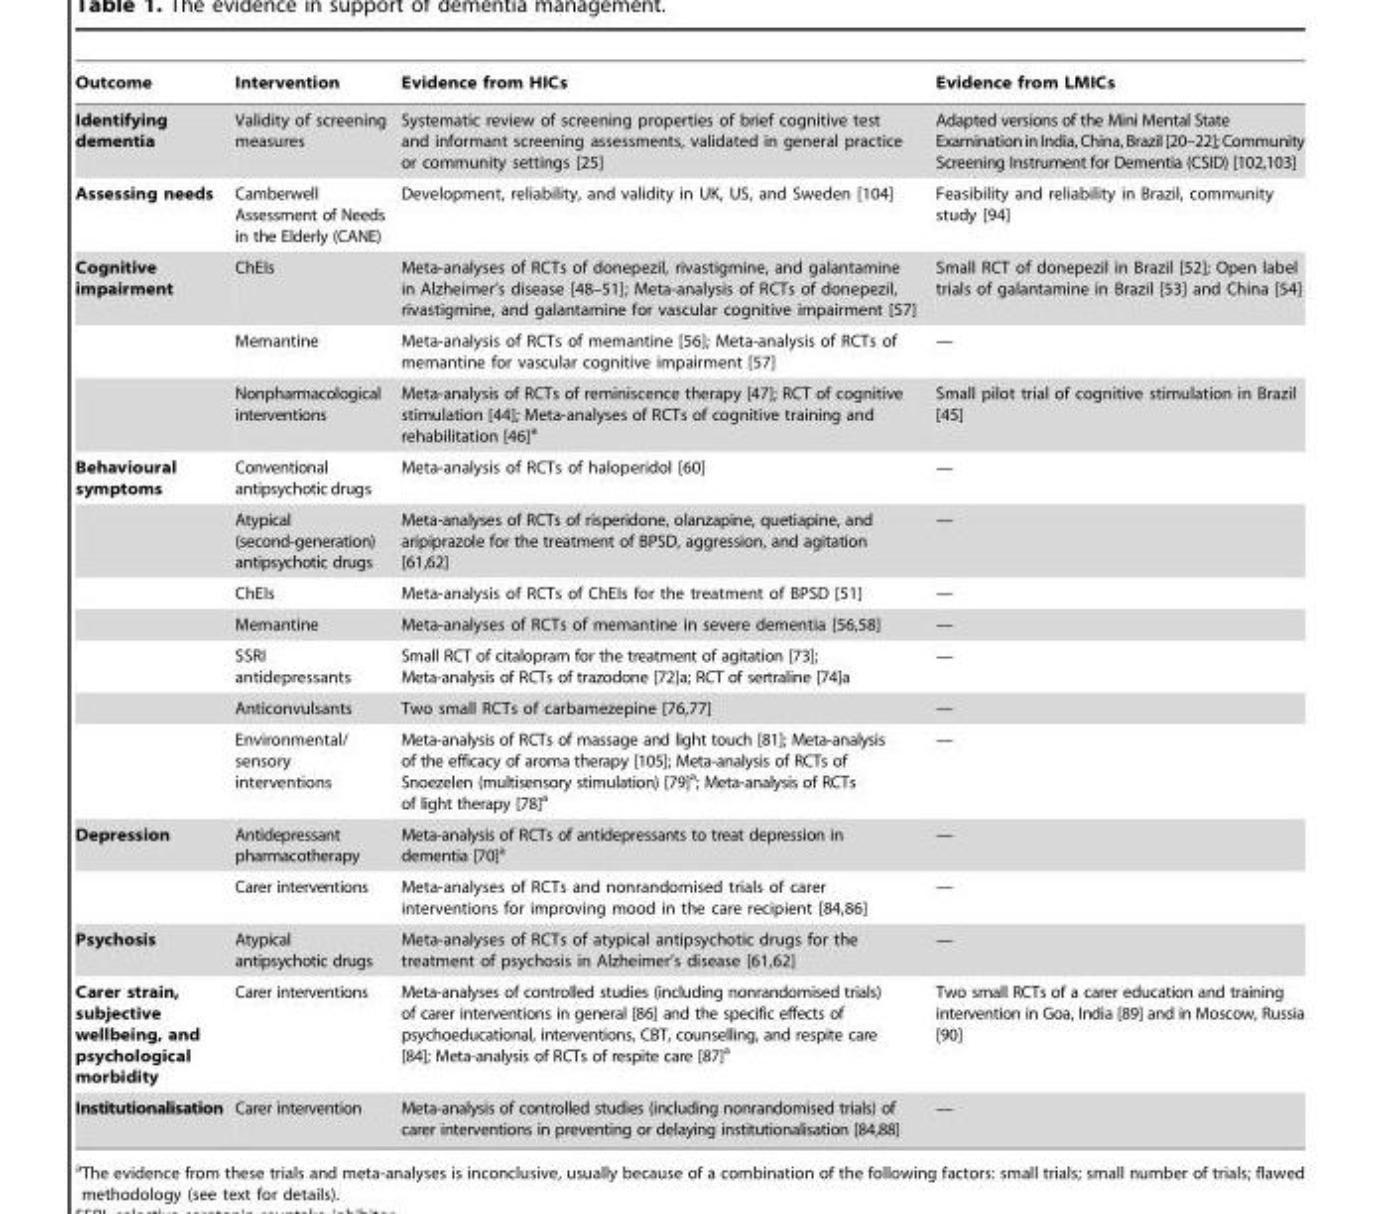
<table><thead><tr><td>Outcome</td><td>Intervention</td><td>Evidence from HICs</td><td>Evidence from LMICs</td></tr></thead><tbody><tr><td>Identifying dementia</td><td>Validity of screening measures</td><td>Systematic review of screening properties of brief cognitive test and informant screening assessments, validated in general practice or community settings [25]</td><td>Adapted versions of the Mini Mental State ExaminationinIndia,China,Brazil[20–22];Community Screening Instrument for Dementia (CSID) [102,103]</td></tr><tr><td>Assessing needs</td><td>Camberwell Assessment of Needs in the Elderly (CANE)</td><td>Development, reliability, and validity in UK, US, and Sweden [104]</td><td>Feasibility and reliability in Brazil, community study [94]</td></tr><tr><td rowspan="3">Cognitive impairment</td><td>ChEIs</td><td>Meta-analyses of RCTs of donepezil, rivastigmine, and galantamine in Alzheimer’s disease [48–51]; Meta-analysis of RCTs of donepezil, rivastigmine, and galantamine for vascular cognitive impairment [57]</td><td>Small RCT of donepezil in Brazil [52]; Open label trials of galantamine in Brazil [53] and China [54]</td></tr><tr><td>Memantine</td><td>Meta-analysis of RCTs of memantine [56]; Meta-analysis of RCTs of memantine for vascular cognitive impairment [57]</td><td>—</td></tr><tr><td>Nonpharmacological interventions</td><td>Meta-analysis of RCTs of reminiscence therapy [47]; RCT of cognitive stimulation [44]; Meta-analyses of RCTs of cognitive training and rehabilitation [46]a</td><td>Small pilot trial of cognitive stimulation in Brazil [45]</td></tr><tr><td rowspan="7">Behavioural symptoms</td><td>Conventional antipsychotic drugs</td><td>Meta-analysis of RCTs of haloperidol [60]</td><td>—</td></tr><tr><td>Atypical (second-generation) antipsychotic drugs</td><td>Meta-analyses of RCTs of risperidone, olanzapine, quetiapine, and aripiprazole for the treatment of BPSD, aggression, and agitation [61,62]</td><td>—</td></tr><tr><td>ChEIs</td><td>Meta-analysis of RCTs of ChEIs for the treatment of BPSD [51]</td><td>—</td></tr><tr><td>Memantine</td><td>Meta-analyses of RCTs of memantine in severe dementia [56,58]</td><td>—</td></tr><tr><td>SSRI antidepressants</td><td>Small RCT of citalopram for the treatment of agitation [73]; Meta-analysis of RCTs of trazodone [72]a; RCT of sertraline [74]a</td><td>—</td></tr><tr><td>Anticonvulsants</td><td>Two small RCTs of carbamezepine [76,77]</td><td>—</td></tr><tr><td>Environmental/ sensory interventions</td><td>Meta-analysis of RCTs of massage and light touch [81]; Meta-analysis of the efficacy of aroma therapy [105]; Meta-analysis of RCTs of Snoezelen (multisensory stimulation) [79]a; Meta-analysis of RCTs of light therapy [78]a</td><td>—</td></tr><tr><td rowspan="2">Depression</td><td>Antidepressant pharmacotherapy</td><td>Meta-analysis of RCTs of antidepressants to treat depression in dementia [70]a</td><td>—</td></tr><tr><td>Carer interventions</td><td>Meta-analyses of RCTs and nonrandomised trials of carer interventions for improving mood in the care recipient [84,86]</td><td>—</td></tr><tr><td>Psychosis</td><td>Atypical antipsychotic drugs</td><td>Meta-analyses of RCTs of atypical antipsychotic drugs for the treatment of psychosis in Alzheimer’s disease [61,62]</td><td>—</td></tr><tr><td>Carer strain, subjective wellbeing, and psychological morbidity</td><td>Carer interventions</td><td>Meta-analyses of controlled studies (including nonrandomised trials) of carer interventions in general [86] and the specific effects of psychoeducational, interventions, CBT, counselling, and respite care [84]; Meta-analysis of RCTs of respite care [87]a</td><td>Two small RCTs of a carer education and training intervention in Goa, India [89] and in Moscow, Russia [90]</td></tr><tr><td>Institutionalisation</td><td>Carer intervention</td><td>Meta-analysis of controlled studies (including nonrandomised trials) of carer interventions in preventing or delaying institutionalisation [84,88]</td><td>—</td></tr></tbody></table>